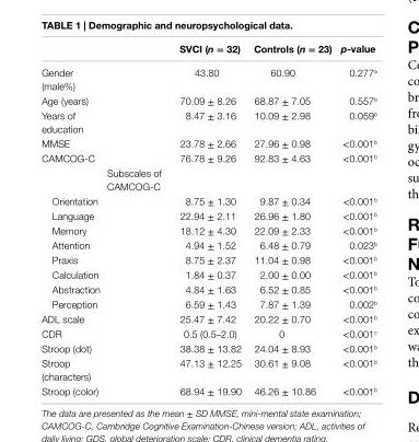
<table><thead><tr><td></td><td></td><td>sVci (n = 32)</td><td>controls (n = 23)</td><td>p-value</td></tr></thead><tbody><tr><td>Gender (male%)</td><td></td><td>43.80</td><td>60.90</td><td>0.277<sup>a</sup></td></tr><tr><td>Age (years)</td><td></td><td>70.09 ± 8.26</td><td>68.87 ± 7.05</td><td>0.557<sup>b</sup></td></tr><tr><td>Years of education</td><td></td><td>8.47 ± 3.16</td><td>10.09 ± 2.98</td><td>0.059<sup>b</sup></td></tr><tr><td>MMSE</td><td></td><td>23.78 ± 2.66</td><td>27.96 ± 0.98</td><td>&lt;0.001<sup>b</sup></td></tr><tr><td rowspan="2">CAMCOG-C</td><td></td><td>76.78 ± 9.26</td><td>92.83 ± 4.63</td><td>&lt;0.001<sup>b</sup></td></tr><tr><td>Subscales of CAMCOG-C</td><td></td><td></td><td></td></tr><tr><td>Orientation</td><td></td><td>8.75 ± 1.30</td><td>9.87 ± 0.34</td><td>&lt;0.001<sup>b</sup></td></tr><tr><td>Language</td><td></td><td>22.94 ± 2.11</td><td>26.96 ± 1.80</td><td>&lt;0.001<sup>b</sup></td></tr><tr><td>Memory</td><td></td><td>18.12 ± 4.30</td><td>22.09 ± 2.33</td><td>&lt;0.001<sup>b</sup></td></tr><tr><td>Attention</td><td></td><td>4.94 ± 1.52</td><td>6.48 ± 0.79</td><td>0.023<sup>b</sup></td></tr><tr><td>Praxis</td><td></td><td>8.75 ± 2.37</td><td>11.04 ± 0.98</td><td>&lt;0.001<sup>b</sup></td></tr><tr><td>Calculation</td><td></td><td>1.84 ± 0.37</td><td>2.00 ± 0.00</td><td>&lt;0.001<sup>b</sup></td></tr><tr><td>Abstraction</td><td></td><td>4.84 ± 1.63</td><td>6.52 ± 0.85</td><td>&lt;0.001<sup>b</sup></td></tr><tr><td>Perception</td><td></td><td>6.59 ± 1.43</td><td>7.87 ± 1.39</td><td>0.002<sup>b</sup></td></tr><tr><td>ADL scale</td><td></td><td>25.47 ± 7.42</td><td>20.22 ± 0.70</td><td>&lt;0.001<sup>b</sup></td></tr><tr><td>CDR</td><td></td><td>0.5 (0.5–2.0)</td><td>0</td><td>&lt;0.001<sup>c</sup></td></tr><tr><td>Stroop (dot)</td><td></td><td>38.38 ± 13.82</td><td>24.04 ± 8.93</td><td>&lt;0.001<sup>b</sup></td></tr><tr><td>Stroop (characters)</td><td></td><td>47.13 ± 12.25</td><td>30.61 ± 9.08</td><td>&lt;0.001<sup>b</sup></td></tr><tr><td>Stroop (color)</td><td></td><td>68.94 ± 19.90</td><td>46.26 ± 10.86</td><td>&lt;0.001<sup>b</sup></td></tr></tbody></table>